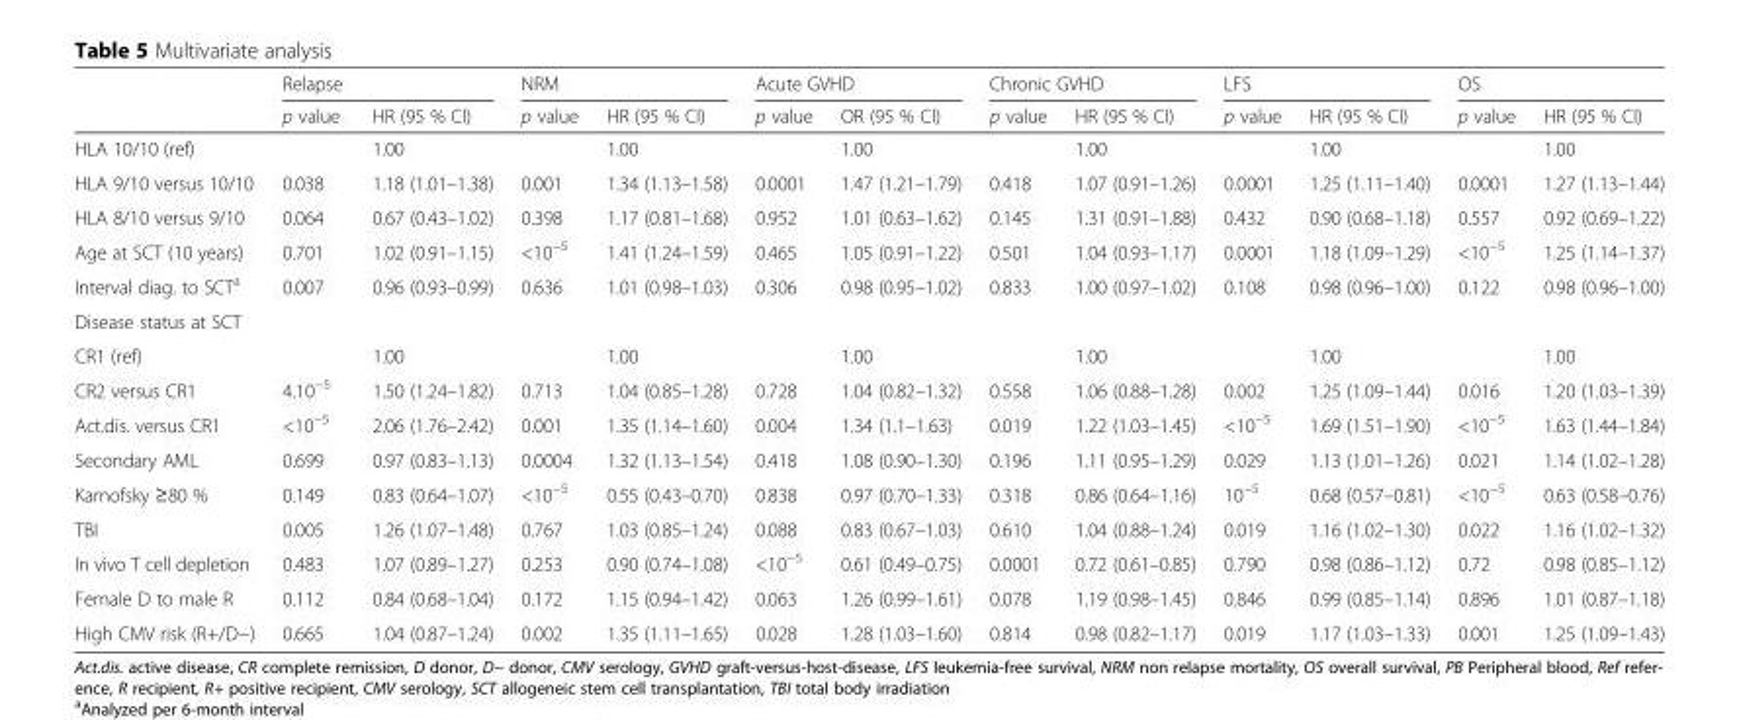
<table><thead><tr><td rowspan="2"></td><td colspan="2">Relapse</td><td colspan="2">NRM</td><td colspan="2">Acute GVHD</td><td colspan="2">Chronic GVHD</td><td colspan="2">LFS</td><td colspan="2">OS</td></tr><tr><td>p value</td><td>HR (95 % CI)</td><td>p value</td><td>HR (95 % CI)</td><td>p value</td><td>OR (95 % CI)</td><td>p value</td><td>HR (95 % CI)</td><td>p value</td><td>HR (95 % CI)</td><td>p value</td><td>HR (95 % CI)</td></tr></thead><tbody><tr><td>HLA 10/10 (ref)</td><td></td><td>1.00</td><td></td><td>1.00</td><td></td><td>1.00</td><td></td><td>1.00</td><td></td><td>1.00</td><td></td><td>1.00</td></tr><tr><td>HLA 9/10 versus 10/10</td><td>0.038</td><td>1.18 (1.01–1.38)</td><td>0.001</td><td>1.34 (1.13–1.58)</td><td>0.0001</td><td>1.47 (1.21–1.79)</td><td>0.418</td><td>1.07 (0.91–1.26)</td><td>0.0001</td><td>1.25 (1.11–1.40)</td><td>0.0001</td><td>1.27 (1.13–1.44)</td></tr><tr><td>HLA 8/10 versus 9/10</td><td>0.064</td><td>0.67 (0.43–1.02)</td><td>0.398</td><td>1.17 (0.81–1.68)</td><td>0.952</td><td>1.01 (0.63–1.62)</td><td>0.145</td><td>1.31 (0.91–1.88)</td><td>0.432</td><td>0.90 (0.68–1.18)</td><td>0.557</td><td>0.92 (0.69–1.22)</td></tr><tr><td>Age at SCT (10 years)</td><td>0.701</td><td>1.02 (0.91–1.15)</td><td>&lt;10<sup>−5</sup></td><td>1.41 (1.24–1.59)</td><td>0.465</td><td>1.05 (0.91–1.22)</td><td>0.501</td><td>1.04 (0.93–1.17)</td><td>0.0001</td><td>1.18 (1.09–1.29)</td><td>&lt;10<sup>−5</sup></td><td>1.25 (1.14–1.37)</td></tr><tr><td>Interval diag. to SCT<sup>a</sup></td><td>0.007</td><td>0.96 (0.93–0.99)</td><td>0.636</td><td>1.01 (0.98–1.03)</td><td>0.306</td><td>0.98 (0.95–1.02)</td><td>0.833</td><td>1.00 (0.97–1.02)</td><td>0.108</td><td>0.98 (0.96–1.00)</td><td>0.122</td><td>0.98 (0.96–1.00)</td></tr><tr><td colspan="13">Disease status at SCT</td></tr><tr><td>CR1 (ref)</td><td></td><td>1.00</td><td></td><td>1.00</td><td></td><td>1.00</td><td></td><td>1.00</td><td></td><td>1.00</td><td></td><td>1.00</td></tr><tr><td>CR2 versus CR1</td><td>4.10<sup>−5</sup></td><td>1.50 (1.24–1.82)</td><td>0.713</td><td>1.04 (0.85–1.28)</td><td>0.728</td><td>1.04 (0.82–1.32)</td><td>0.558</td><td>1.06 (0.88–1.28)</td><td>0.002</td><td>1.25 (1.09–1.44)</td><td>0.016</td><td>1.20 (1.03–1.39)</td></tr><tr><td>Act.dis. versus CR1</td><td>&lt;10<sup>−5</sup></td><td>2.06 (1.76–2.42)</td><td>0.001</td><td>1.35 (1.14–1.60)</td><td>0.004</td><td>1.34 (1.1–1.63)</td><td>0.019</td><td>1.22 (1.03–1.45)</td><td>&lt;10<sup>−5</sup></td><td>1.69 (1.51–1.90)</td><td>&lt;10<sup>−5</sup></td><td>1.63 (1.44–1.84)</td></tr><tr><td>Secondary AML</td><td>0.699</td><td>0.97 (0.83–1.13)</td><td>0.0004</td><td>1.32 (1.13–1.54)</td><td>0.418</td><td>1.08 (0.90–1.30)</td><td>0.196</td><td>1.11 (0.95–1.29)</td><td>0.029</td><td>1.13 (1.01–1.26)</td><td>0.021</td><td>1.14 (1.02–1.28)</td></tr><tr><td>Karnofsky ≥80 %</td><td>0.149</td><td>0.83 (0.64–1.07)</td><td>&lt;10<sup>−5</sup></td><td>0.55 (0.43–0.70)</td><td>0.838</td><td>0.97 (0.70–1.33)</td><td>0.318</td><td>0.86 (0.64–1.16)</td><td>10<sup>−5</sup></td><td>0.68 (0.57–0.81)</td><td>&lt;10<sup>−5</sup></td><td>0.63 (0.58–0.76)</td></tr><tr><td>TBI</td><td>0.005</td><td>1.26 (1.07–1.48)</td><td>0.767</td><td>1.03 (0.85–1.24)</td><td>0.088</td><td>0.83 (0.67–1.03)</td><td>0.610</td><td>1.04 (0.88–1.24)</td><td>0.019</td><td>1.16 (1.02–1.30)</td><td>0.022</td><td>1.16 (1.02–1.32)</td></tr><tr><td>In vivo T cell depletion</td><td>0.483</td><td>1.07 (0.89–1.27)</td><td>0.253</td><td>0.90 (0.74–1.08)</td><td>&lt;10<sup>−5</sup></td><td>0.61 (0.49–0.75)</td><td>0.0001</td><td>0.72 (0.61–0.85)</td><td>0.790</td><td>0.98 (0.86–1.12)</td><td>0.72</td><td>0.98 (0.85–1.12)</td></tr><tr><td>Female D to male R</td><td>0.112</td><td>0.84 (0.68–1.04)</td><td>0.172</td><td>1.15 (0.94–1.42)</td><td>0.063</td><td>1.26 (0.99–1.61)</td><td>0.078</td><td>1.19 (0.98–1.45)</td><td>0.846</td><td>0.99 (0.85–1.14)</td><td>0.896</td><td>1.01 (0.87–1.18)</td></tr><tr><td>High CMV risk (R+/D−)</td><td>0.665</td><td>1.04 (0.87–1.24)</td><td>0.002</td><td>1.35 (1.11–1.65)</td><td>0.028</td><td>1.28 (1.03–1.60)</td><td>0.814</td><td>0.98 (0.82–1.17)</td><td>0.019</td><td>1.17 (1.03–1.33)</td><td>0.001</td><td>1.25 (1.09–1.43)</td></tr></tbody></table>